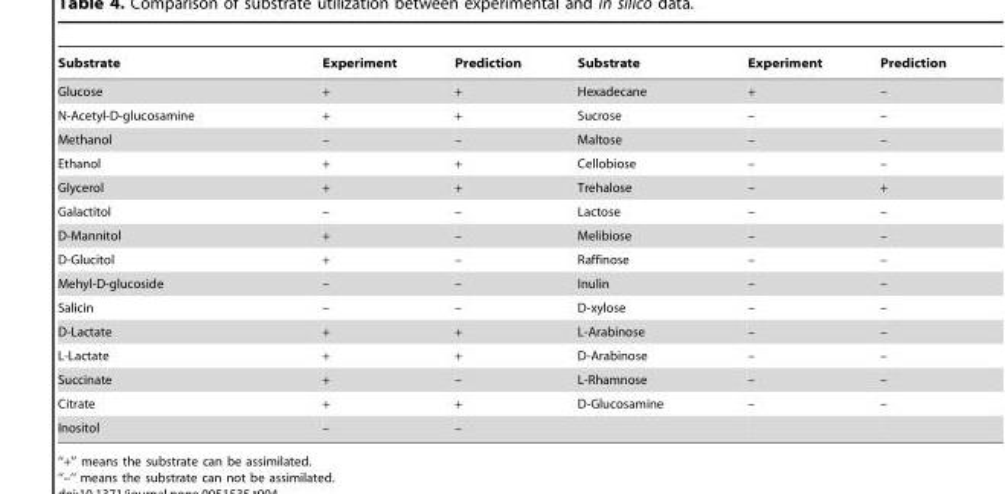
<table><thead><tr><td>Substrate</td><td>Experiment</td><td>Prediction</td><td>Substrate</td><td>Experiment</td><td>Prediction</td></tr></thead><tbody><tr><td>Glucose</td><td>+</td><td>+</td><td>Hexadecane</td><td>+</td><td>–</td></tr><tr><td>N-Acetyl-D-glucosamine</td><td>+</td><td>+</td><td>Sucrose</td><td>–</td><td>–</td></tr><tr><td>Methanol</td><td>–</td><td>–</td><td>Maltose</td><td>–</td><td>–</td></tr><tr><td>Ethanol</td><td>+</td><td>+</td><td>Cellobiose</td><td>–</td><td>–</td></tr><tr><td>Glycerol</td><td>+</td><td>+</td><td>Trehalose</td><td>–</td><td>+</td></tr><tr><td>Galactitol</td><td>–</td><td>–</td><td>Lactose</td><td>–</td><td>–</td></tr><tr><td>D-Mannitol</td><td>+</td><td>–</td><td>Melibiose</td><td>–</td><td>–</td></tr><tr><td>D-Glucitol</td><td>+</td><td>–</td><td>Raffinose</td><td>–</td><td>–</td></tr><tr><td>Mehyl-D-glucoside</td><td>–</td><td>–</td><td>Inulin</td><td>–</td><td>–</td></tr><tr><td>Salicin</td><td>–</td><td>–</td><td>D-xylose</td><td>–</td><td>–</td></tr><tr><td>D-Lactate</td><td>+</td><td>+</td><td>L-Arabinose</td><td>–</td><td>–</td></tr><tr><td>L-Lactate</td><td>+</td><td>+</td><td>D-Arabinose</td><td>–</td><td>–</td></tr><tr><td>Succinate</td><td>+</td><td>–</td><td>L-Rhamnose</td><td>–</td><td>–</td></tr><tr><td>Citrate</td><td>+</td><td>+</td><td>D-Glucosamine</td><td>–</td><td>–</td></tr><tr><td>Inositol</td><td>–</td><td>–</td><td></td><td></td><td></td></tr></tbody></table>